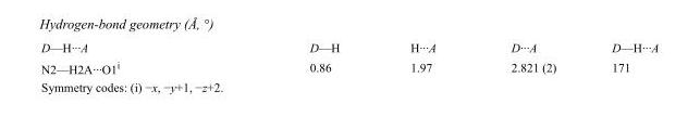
<table><tbody><tr><td>D—H···A</td><td>D—H</td><td>H···A</td><td>D···A</td><td>D—H···A</td></tr><tr><td>N2—H2A···O1<sup>i</sup></td><td>0.86</td><td>1.97</td><td>2.821 (2)</td><td>171</td></tr></tbody></table>